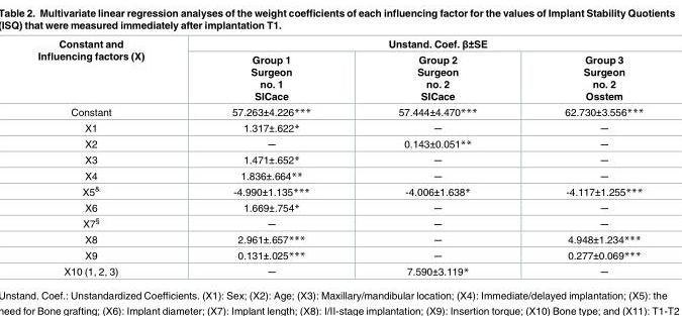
<table><thead><tr><td rowspan="2">Constant and Influencing factors (X)</td><td colspan="3">Unstand. Coef. β±SE</td></tr><tr><td>Group 1 Surgeon no. 1 SICace</td><td>Group 2 Surgeon no. 2 SICace</td><td>Group 3 Surgeon no. 2 Osstem</td></tr></thead><tbody><tr><td>Constant</td><td>57.263±4.226***</td><td>57.444±4.470***</td><td>62.730±3.556***</td></tr><tr><td>X1</td><td>1.317±.622*</td><td>─</td><td>─</td></tr><tr><td>X2</td><td>─</td><td>0.143±0.051**</td><td>─</td></tr><tr><td>X3</td><td>1.471±.652*</td><td>─</td><td>─</td></tr><tr><td>X4</td><td>1.836±.664**</td><td>─</td><td>─</td></tr><tr><td>X5&amp;</td><td>-4.990±1.135***</td><td>-4.006±1.638*</td><td>-4.117±1.255***</td></tr><tr><td>X6</td><td>1.669±.754*</td><td>─</td><td>─</td></tr><tr><td>X7§</td><td>─</td><td>─</td><td>─</td></tr><tr><td>X8</td><td>2.961±.657***</td><td>─</td><td>4.948±1.234***</td></tr><tr><td>X9</td><td>0.131±.025***</td><td>─</td><td>0.277±0.069***</td></tr><tr><td>X10 (1, 2, 3)</td><td>─</td><td>7.590±3.119*</td><td>─</td></tr></tbody></table>